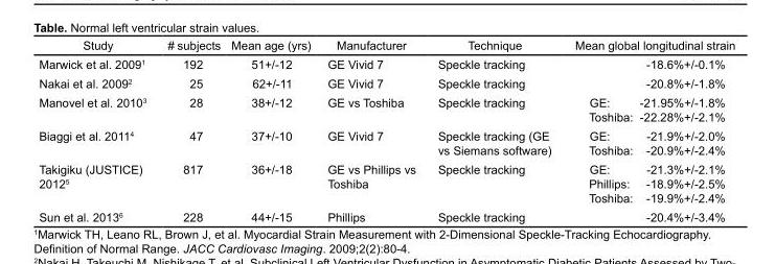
<table><thead><tr><td rowspan="2">Study Marwick et al. 2009<sup>1</sup></td><td rowspan="2"># subjects 192</td><td rowspan="2">Mean age (yrs) 51+/-12</td><td rowspan="2">Manufacturer GE Vivid 7</td><td rowspan="2">Technique Speckle tracking</td><td colspan="2">Mean global longitudinal strain</td></tr><tr><td></td><td>-18.6%+/-0.1%</td></tr></thead><tbody><tr><td>Nakai et al. 2009<sup>2</sup></td><td>25</td><td>62+/-11</td><td>GE Vivid 7</td><td>Speckle tracking</td><td></td><td>-20.8%+/-1.8%</td></tr><tr><td rowspan="2">Manovel et al. 2010<sup>3</sup></td><td rowspan="2">28</td><td rowspan="2">38+/-12</td><td rowspan="2">GE vs Toshiba</td><td rowspan="2">Speckle tracking</td><td>GE:</td><td>-21.95%+/-1.8%</td></tr><tr><td>Toshiba:</td><td>-22.28%+/-2.1%</td></tr><tr><td rowspan="2">Biaggi et al. 2011<sup>4</sup></td><td rowspan="2">47</td><td rowspan="2">37+/-10</td><td rowspan="2">GE Vivid 7</td><td rowspan="2">Speckle tracking (GE vs Siemans software)</td><td>GE:</td><td>-21.9%+/-2.0%</td></tr><tr><td>Toshiba:</td><td>-20.9%+/-2.4%</td></tr><tr><td rowspan="3">Takigiku (JUSTICE) 2012<sup>5</sup></td><td rowspan="3">817</td><td rowspan="3">36+/-18</td><td rowspan="3">GE vs Phillips vs Toshiba</td><td rowspan="3">Speckle tracking</td><td>GE:</td><td>-21.3%+/-2.1%</td></tr><tr><td>Phillips:</td><td>-18.9%+/-2.5%</td></tr><tr><td>Toshiba:</td><td>-19.9%+/-2.4%</td></tr><tr><td>Sun et al. 2013<sup>6</sup></td><td>228</td><td>44+/-15</td><td>Phillips</td><td>Speckle tracking</td><td></td><td>-20.4%+/-3.4%</td></tr></tbody></table>